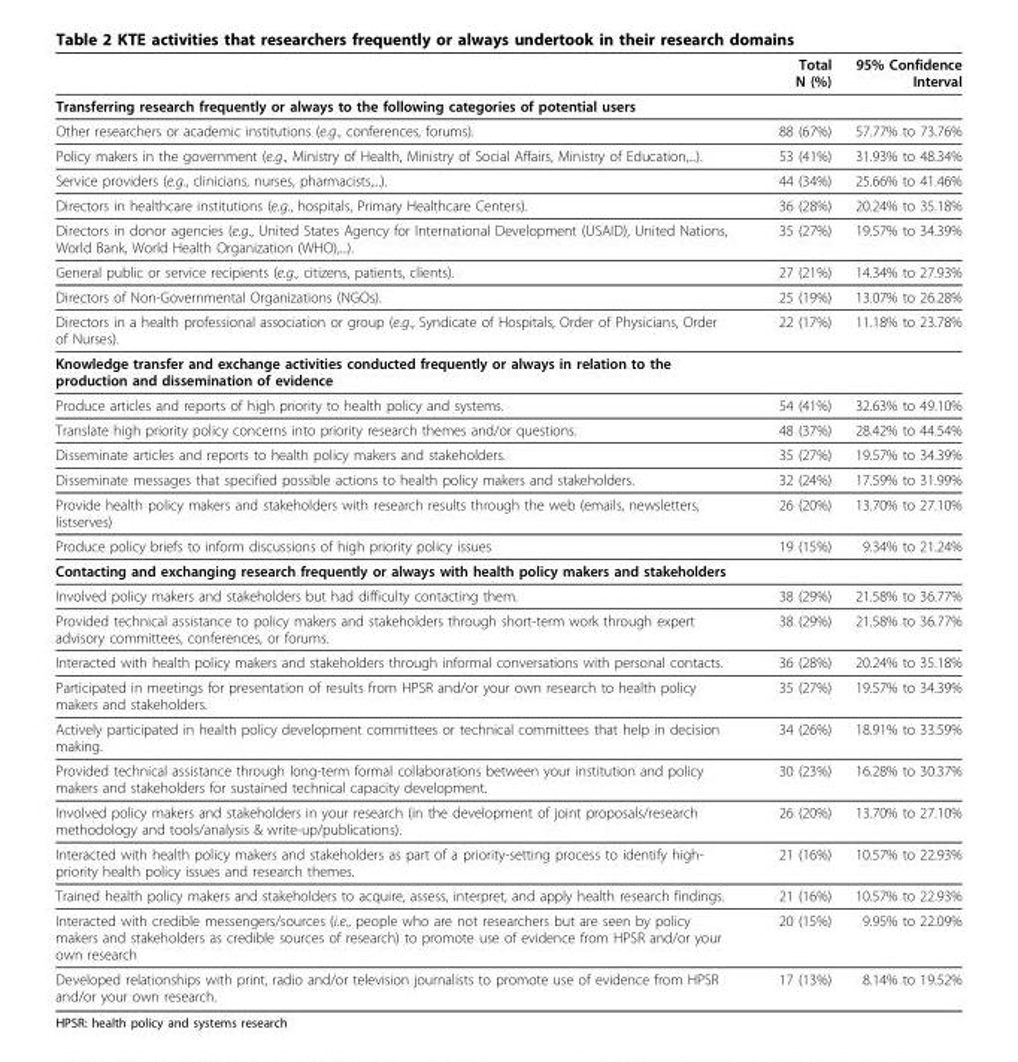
<table><thead><tr><td></td><td>Total N (%)</td><td>95% Confidence Interval</td></tr></thead><tbody><tr><td colspan="3">Transferring research frequently or always to the following categories of potential users</td></tr><tr><td>Other researchers or academic institutions (e.g., conferences, forums).</td><td>88 (67%)</td><td>57.77% to 73.76%</td></tr><tr><td>Policy makers in the government (e.g., Ministry of Health, Ministry of Social Affairs, Ministry of Education,...).</td><td>53 (41%)</td><td>31.93% to 48.34%</td></tr><tr><td>Service providers (e.g., clinicians, nurses, pharmacists,...).</td><td>44 (34%)</td><td>25.66% to 41.46%</td></tr><tr><td>Directors in healthcare institutions (e.g., hospitals, Primary Healthcare Centers).</td><td>36 (28%)</td><td>20.24% to 35.18%</td></tr><tr><td>Directors in donor agencies (e.g., United States Agency for International Development (USAID), United Nations, World Bank, World Health Organization (WHO),...).</td><td>35 (27%)</td><td>19.57% to 34.39%</td></tr><tr><td>General public or service recipients (e.g., citizens, patients, clients).</td><td>27 (21%)</td><td>14.34% to 27.93%</td></tr><tr><td>Directors of Non-Governmental Organizations (NGOs).</td><td>25 (19%)</td><td>13.07% to 26.28%</td></tr><tr><td>Directors in a health professional association or group (e.g., Syndicate of Hospitals, Order of Physicians, Order of Nurses).</td><td>22 (17%)</td><td>11.18% to 23.78%</td></tr><tr><td colspan="3">Knowledge transfer and exchange activities conducted frequently or always in relation to the production and dissemination of evidence</td></tr><tr><td>Produce articles and reports of high priority to health policy and systems.</td><td>54 (41%)</td><td>32.63% to 49.10%</td></tr><tr><td>Translate high priority policy concerns into priority research themes and/or questions.</td><td>48 (37%)</td><td>28.42% to 44.54%</td></tr><tr><td>Disseminate articles and reports to health policy makers and stakeholders.</td><td>35 (27%)</td><td>19.57% to 34.39%</td></tr><tr><td>Disseminate messages that specified possible actions to health policy makers and stakeholders.</td><td>32 (24%)</td><td>17.59% to 31.99%</td></tr><tr><td>Provide health policy makers and stakeholders with research results through the web (emails, newsletters, listserves)</td><td>26 (20%)</td><td>13.70% to 27.10%</td></tr><tr><td>Produce policy briefs to inform discussions of high priority policy issues</td><td>19 (15%)</td><td>9.34% to 21.24%</td></tr><tr><td colspan="3">Contacting and exchanging research frequently or always with health policy makers and stakeholders</td></tr><tr><td>Involved policy makers and stakeholders but had difficulty contacting them.</td><td>38 (29%)</td><td>21.58% to 36.77%</td></tr><tr><td>Provided technical assistance to policy makers and stakeholders through short-term work through expert advisory committees, conferences, or forums.</td><td>38 (29%)</td><td>21.58% to 36.77%</td></tr><tr><td>Interacted with health policy makers and stakeholders through informal conversations with personal contacts.</td><td>36 (28%)</td><td>20.24% to 35.18%</td></tr><tr><td>Participated in meetings for presentation of results from HPSR and/or your own research to health policy makers and stakeholders.</td><td>35 (27%)</td><td>19.57% to 34.39%</td></tr><tr><td>Actively participated in health policy development committees or technical committees that help in decision making.</td><td>34 (26%)</td><td>18.91% to 33.59%</td></tr><tr><td>Provided technical assistance through long-term formal collaborations between your institution and policy makers and stakeholders for sustained technical capacity development.</td><td>30 (23%)</td><td>16.28% to 30.37%</td></tr><tr><td>Involved policy makers and stakeholders in your research (in the development of joint proposals/research methodology and tools/analysis &amp; write-up/publications).</td><td>26 (20%)</td><td>13.70% to 27.10%</td></tr><tr><td>Interacted with health policy makers and stakeholders as part of a priority-setting process to identify high- priority health policy issues and research themes.</td><td>21 (16%)</td><td>10.57% to 22.93%</td></tr><tr><td>Trained health policy makers and stakeholders to acquire, assess, interpret, and apply health research findings.</td><td>21 (16%)</td><td>10.57% to 22.93%</td></tr><tr><td>Interacted with credible messengers/sources (i.e., people who are not researchers but are seen by policy makers and stakeholders as credible sources of research) to promote use of evidence from HPSR and/or your own research</td><td>20 (15%)</td><td>9.95% to 22.09%</td></tr><tr><td>Developed relationships with print, radio and/or television journalists to promote use of evidence from HPSR and/or your own research.</td><td>17 (13%)</td><td>8.14% to 19.52%</td></tr></tbody></table>